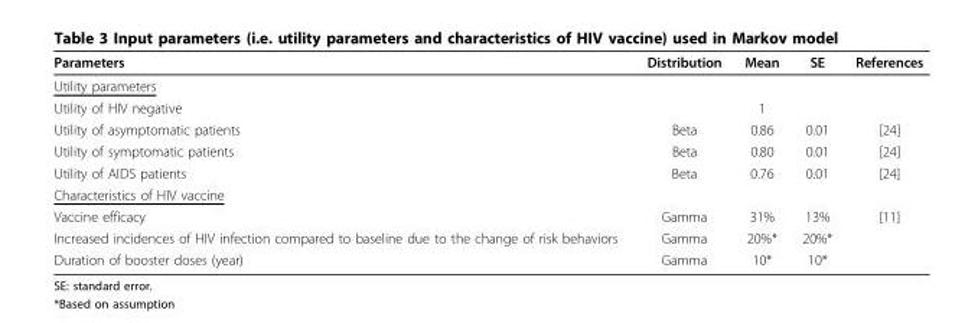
<table><thead><tr><td>Parameters</td><td>Distribution</td><td>Mean</td><td>SE</td><td>References</td></tr></thead><tbody><tr><td colspan="5">Utility parameters</td></tr><tr><td>Utility of HIV negative</td><td></td><td>1</td><td></td><td></td></tr><tr><td>Utility of asymptomatic patients</td><td>Beta</td><td>0.86</td><td>0.01</td><td>[24]</td></tr><tr><td>Utility of symptomatic patients</td><td>Beta</td><td>0.80</td><td>0.01</td><td>[24]</td></tr><tr><td>Utility of AIDS patients</td><td>Beta</td><td>0.76</td><td>0.01</td><td>[24]</td></tr><tr><td colspan="5">Characteristics of HIV vaccine</td></tr><tr><td>Vaccine efficacy</td><td>Gamma</td><td>31%</td><td>13%</td><td>[11]</td></tr><tr><td>Increased incidences of HIV infection compared to baseline due to the change of risk behaviors</td><td>Gamma</td><td>20%*</td><td>20%*</td><td></td></tr><tr><td>Duration of booster doses (year)</td><td>Gamma</td><td>10*</td><td>10*</td><td></td></tr></tbody></table>